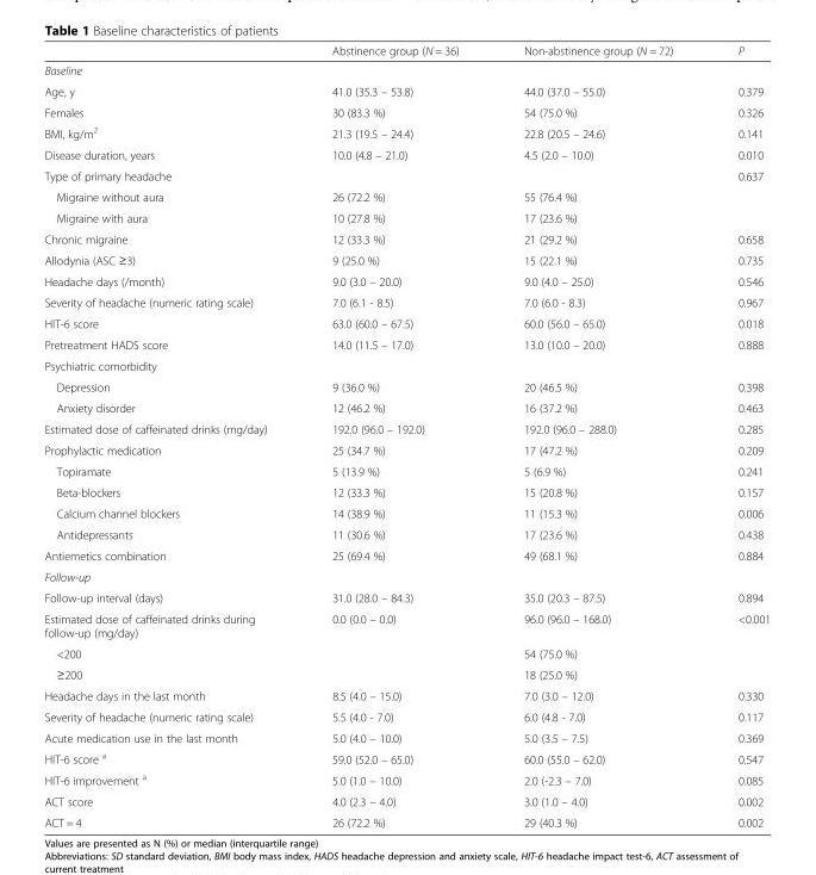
<table><thead><tr><td></td><td>Abstinence group (N = 36)</td><td>Non-abstinence group (N = 72)</td><td>P</td></tr></thead><tbody><tr><td colspan="4">Baseline</td></tr><tr><td>Age, y</td><td>41.0 (35.3 – 53.8)</td><td>44.0 (37.0 – 55.0)</td><td>0.379</td></tr><tr><td>Females</td><td>30 (83.3 %)</td><td>54 (75.0 %)</td><td>0.326</td></tr><tr><td>BMI, kg/m<sup>2</sup></td><td>21.3 (19.5 – 24.4)</td><td>22.8 (20.5 – 24.6)</td><td>0.141</td></tr><tr><td>Disease duration, years</td><td>10.0 (4.8 – 21.0)</td><td>4.5 (2.0 – 10.0)</td><td>0.010</td></tr><tr><td>Type of primary headache</td><td></td><td></td><td>0.637</td></tr><tr><td>Migraine without aura</td><td>26 (72.2 %)</td><td>55 (76.4 %)</td><td></td></tr><tr><td>Migraine with aura</td><td>10 (27.8 %)</td><td>17 (23.6 %)</td><td></td></tr><tr><td>Chronic migraine</td><td>12 (33.3 %)</td><td>21 (29.2 %)</td><td>0.658</td></tr><tr><td>Allodynia (ASC ≥3)</td><td>9 (25.0 %)</td><td>15 (22.1 %)</td><td>0.735</td></tr><tr><td>Headache days (/month)</td><td>9.0 (3.0 – 20.0)</td><td>9.0 (4.0 – 25.0)</td><td>0.546</td></tr><tr><td>Severity of headache (numeric rating scale)</td><td>7.0 (6.1 - 8.5)</td><td>7.0 (6.0 - 8.3)</td><td>0.967</td></tr><tr><td>HIT-6 score</td><td>63.0 (60.0 – 67.5)</td><td>60.0 (56.0 – 65.0)</td><td>0.018</td></tr><tr><td>Pretreatment HADS score</td><td>14.0 (11.5 – 17.0)</td><td>13.0 (10.0 – 20.0)</td><td>0.888</td></tr><tr><td colspan="4">Psychiatric comorbidity</td></tr><tr><td>Depression</td><td>9 (36.0 %)</td><td>20 (46.5 %)</td><td>0.398</td></tr><tr><td>Anxiety disorder</td><td>12 (46.2 %)</td><td>16 (37.2 %)</td><td>0.463</td></tr><tr><td>Estimated dose of caffeinated drinks (mg/day)</td><td>192.0 (96.0 – 192.0)</td><td>192.0 (96.0 – 288.0)</td><td>0.285</td></tr><tr><td>Prophylactic medication</td><td>25 (34.7 %)</td><td>17 (47.2 %)</td><td>0.209</td></tr><tr><td>Topiramate</td><td>5 (13.9 %)</td><td>5 (6.9 %)</td><td>0.241</td></tr><tr><td>Beta-blockers</td><td>12 (33.3 %)</td><td>15 (20.8 %)</td><td>0.157</td></tr><tr><td>Calcium channel blockers</td><td>14 (38.9 %)</td><td>11 (15.3 %)</td><td>0.006</td></tr><tr><td>Antidepressants</td><td>11 (30.6 %)</td><td>17 (23.6 %)</td><td>0.438</td></tr><tr><td>Antiemetics combination</td><td>25 (69.4 %)</td><td>49 (68.1 %)</td><td>0.884</td></tr><tr><td colspan="4">Follow-up</td></tr><tr><td>Follow-up interval (days)</td><td>31.0 (28.0 – 84.3)</td><td>35.0 (20.3 – 87.5)</td><td>0.894</td></tr><tr><td>Estimated dose of caffeinated drinks during follow-up (mg/day)</td><td>0.0 (0.0 – 0.0)</td><td>96.0 (96.0 – 168.0)</td><td>&lt;0.001</td></tr><tr><td>&lt;200</td><td></td><td>54 (75.0 %)</td><td></td></tr><tr><td>≥200</td><td></td><td>18 (25.0 %)</td><td></td></tr><tr><td>Headache days in the last month</td><td>8.5 (4.0 – 15.0)</td><td>7.0 (3.0 – 12.0)</td><td>0.330</td></tr><tr><td>Severity of headache (numeric rating scale)</td><td>5.5 (4.0 - 7.0)</td><td>6.0 (4.8 - 7.0)</td><td>0.117</td></tr><tr><td>Acute medication use in the last month</td><td>5.0 (4.0 – 10.0)</td><td>5.0 (3.5 – 7.5)</td><td>0.369</td></tr><tr><td>HIT-6 score <sup>a</sup></td><td>59.0 (52.0 – 65.0)</td><td>60.0 (55.0 – 62.0)</td><td>0.547</td></tr><tr><td>HIT-6 improvement <sup>a</sup></td><td>5.0 (1.0 – 10.0)</td><td>2.0 (-2.3 – 7.0)</td><td>0.085</td></tr><tr><td>ACT score</td><td>4.0 (2.3 – 4.0)</td><td>3.0 (1.0 – 4.0)</td><td>0.002</td></tr><tr><td>ACT = 4</td><td>26 (72.2 %)</td><td>29 (40.3 %)</td><td>0.002</td></tr></tbody></table>